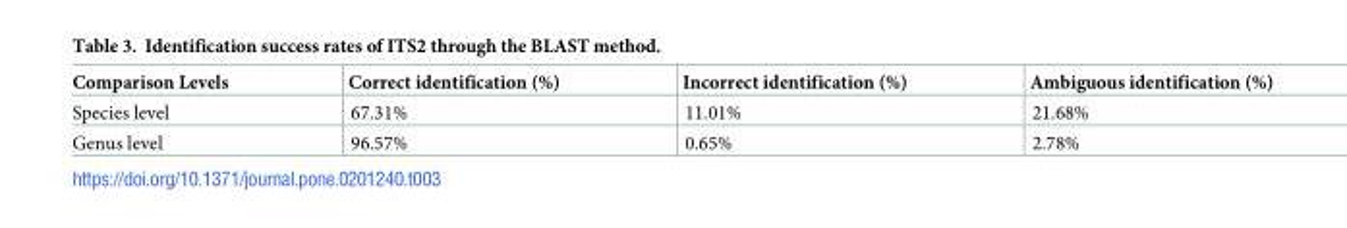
<table><thead><tr><td>Comparison Levels</td><td>Correct identification (%)</td><td>Incorrect identification (%)</td><td>Ambiguous identification (%)</td></tr></thead><tbody><tr><td>Species level</td><td>67.31%</td><td>11.01%</td><td>21.68%</td></tr><tr><td>Genus level</td><td>96.57%</td><td>0.65%</td><td>2.78%</td></tr></tbody></table>